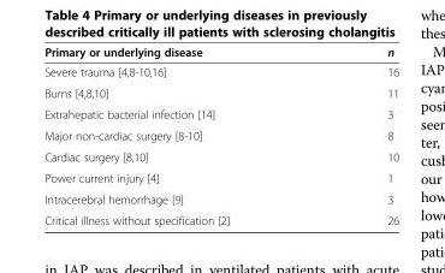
<table><thead><tr><td>Primary or underlying disease</td><td>n</td></tr></thead><tbody><tr><td>Severe trauma [4,8-10,16]</td><td>16</td></tr><tr><td>Burns [4,8,10]</td><td>11</td></tr><tr><td>Extrahepatic bacterial infection [14]</td><td>3</td></tr><tr><td>Major non-cardiac surgery [8-10]</td><td>8</td></tr><tr><td>Cardiac surgery [8,10]</td><td>10</td></tr><tr><td>Power current injury [4]</td><td>1</td></tr><tr><td>Intracerebral hemorrhage [9]</td><td>3</td></tr><tr><td>Critical illness without specification [2]</td><td>26</td></tr></tbody></table>